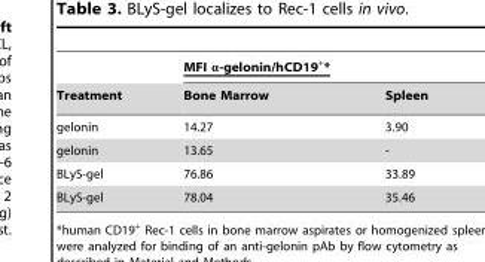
<table><thead><tr><td rowspan="2">Treatment</td><td colspan="2">MFI α-gelonin/hCD19<sup>+</sup>*</td></tr><tr><td>Bone Marrow</td><td>Spleen</td></tr></thead><tbody><tr><td>gelonin</td><td>14.27</td><td>3.90</td></tr><tr><td>gelonin</td><td>13.65</td><td>-</td></tr><tr><td>BLyS-gel</td><td>76.86</td><td>33.89</td></tr><tr><td>BLyS-gel</td><td>78.04</td><td>35.46</td></tr></tbody></table>